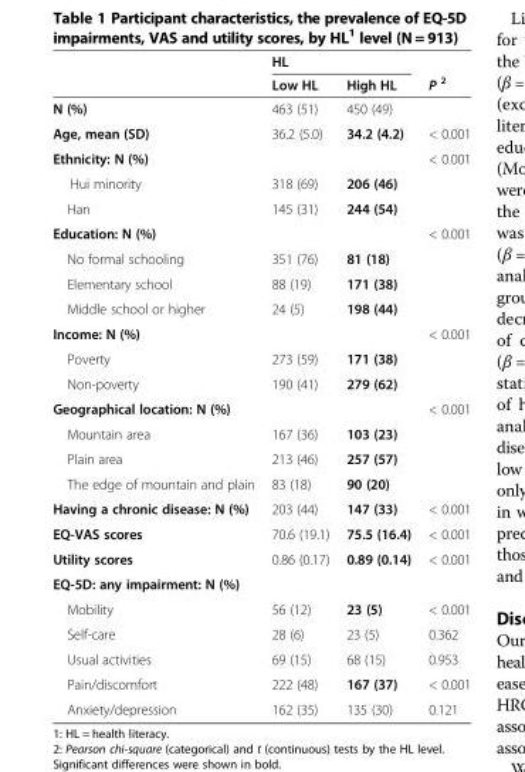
<table><thead><tr><td rowspan="2"></td><td colspan="2">HL</td><td rowspan="2">P <sup>2</sup></td></tr><tr><td>Low HL</td><td>High HL</td></tr></thead><tbody><tr><td>N (%)</td><td>463 (51)</td><td>450 (49)</td><td></td></tr><tr><td>Age, mean (SD)</td><td>36.2 (5.0)</td><td>34.2 (4.2)</td><td>&lt; 0.001</td></tr><tr><td>Ethnicity: N (%)</td><td></td><td></td><td>&lt; 0.001</td></tr><tr><td>Hui minority</td><td>318 (69)</td><td>206 (46)</td><td></td></tr><tr><td>Han</td><td>145 (31)</td><td>244 (54)</td><td></td></tr><tr><td>Education: N (%)</td><td></td><td></td><td>&lt; 0.001</td></tr><tr><td>No formal schooling</td><td>351 (76)</td><td>81 (18)</td><td></td></tr><tr><td>Elementary school</td><td>88 (19)</td><td>171 (38)</td><td></td></tr><tr><td>Middle school or higher</td><td>24 (5)</td><td>198 (44)</td><td></td></tr><tr><td>Income: N (%)</td><td></td><td></td><td>&lt; 0.001</td></tr><tr><td>Poverty</td><td>273 (59)</td><td>171 (38)</td><td></td></tr><tr><td>Non-poverty</td><td>190 (41)</td><td>279 (62)</td><td></td></tr><tr><td>Geographical location: N (%)</td><td></td><td></td><td>&lt; 0.001</td></tr><tr><td>Mountain area</td><td>167 (36)</td><td>103 (23)</td><td></td></tr><tr><td>Plain area</td><td>213 (46)</td><td>257 (57)</td><td></td></tr><tr><td>The edge of mountain and plain</td><td>83 (18)</td><td>90 (20)</td><td></td></tr><tr><td>Having a chronic disease: N (%)</td><td>203 (44)</td><td>147 (33)</td><td>&lt; 0.001</td></tr><tr><td>EQ-VAS scores</td><td>70.6 (19.1)</td><td>75.5 (16.4)</td><td>&lt; 0.001</td></tr><tr><td>Utility scores</td><td>0.86 (0.17)</td><td>0.89 (0.14)</td><td>&lt; 0.001</td></tr><tr><td colspan="4">EQ-5D: any impairment: N (%)</td></tr><tr><td>Mobility</td><td>56 (12)</td><td>23 (5)</td><td>&lt; 0.001</td></tr><tr><td>Self-care</td><td>28 (6)</td><td>23 (5)</td><td>0.362</td></tr><tr><td>Usual activities</td><td>69 (15)</td><td>68 (15)</td><td>0.953</td></tr><tr><td>Pain/discomfort</td><td>222 (48)</td><td>167 (37)</td><td>&lt; 0.001</td></tr><tr><td>Anxiety/depression</td><td>162 (35)</td><td>135 (30)</td><td>0.121</td></tr></tbody></table>